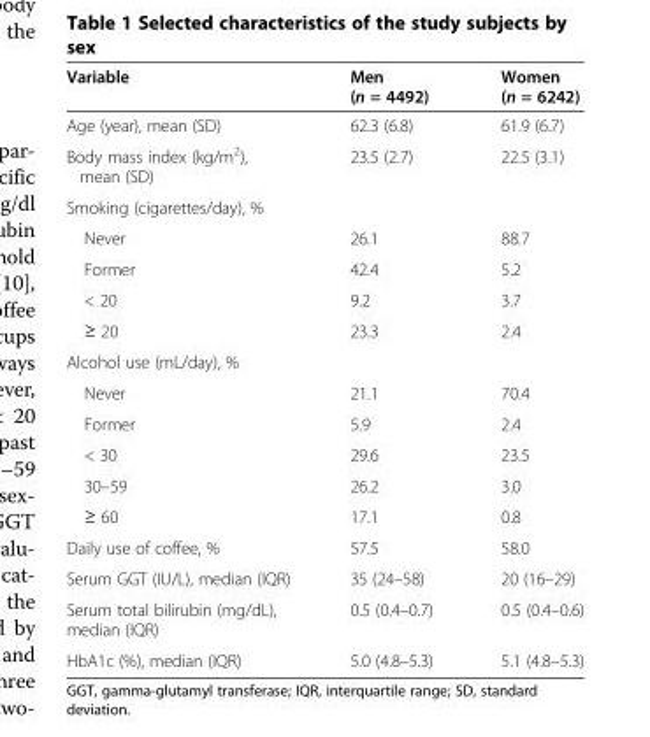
<table><thead><tr><td>Variable</td><td>Men (n = 4492)</td><td>Women (n = 6242)</td></tr></thead><tbody><tr><td>Age (year), mean (SD)</td><td>62.3 (6.8)</td><td>61.9 (6.7)</td></tr><tr><td>Body mass index (kg/m<sup>2</sup>), mean (SD)</td><td>23.5 (2.7)</td><td>22.5 (3.1)</td></tr><tr><td colspan="3">Smoking (cigarettes/day), %</td></tr><tr><td>Never</td><td>26.1</td><td>88.7</td></tr><tr><td>Former</td><td>42.4</td><td>5.2</td></tr><tr><td>&lt; 20</td><td>9.2</td><td>3.7</td></tr><tr><td>≥ 20</td><td>23.3</td><td>2.4</td></tr><tr><td colspan="3">Alcohol use (mL/day), %</td></tr><tr><td>Never</td><td>21.1</td><td>70.4</td></tr><tr><td>Former</td><td>5.9</td><td>2.4</td></tr><tr><td>&lt; 30</td><td>29.6</td><td>23.5</td></tr><tr><td>30–59</td><td>26.2</td><td>3.0</td></tr><tr><td>≥ 60</td><td>17.1</td><td>0.8</td></tr><tr><td>Daily use of coffee, %</td><td>57.5</td><td>58.0</td></tr><tr><td>Serum GGT (IU/L), median (IQR)</td><td>35 (24–58)</td><td>20 (16–29)</td></tr><tr><td>Serum total bilirubin (mg/dL), median (IQR)</td><td>0.5 (0.4–0.7)</td><td>0.5 (0.4–0.6)</td></tr><tr><td>HbA1c (%), median (IQR)</td><td>5.0 (4.8–5.3)</td><td>5.1 (4.8–5.3)</td></tr></tbody></table>